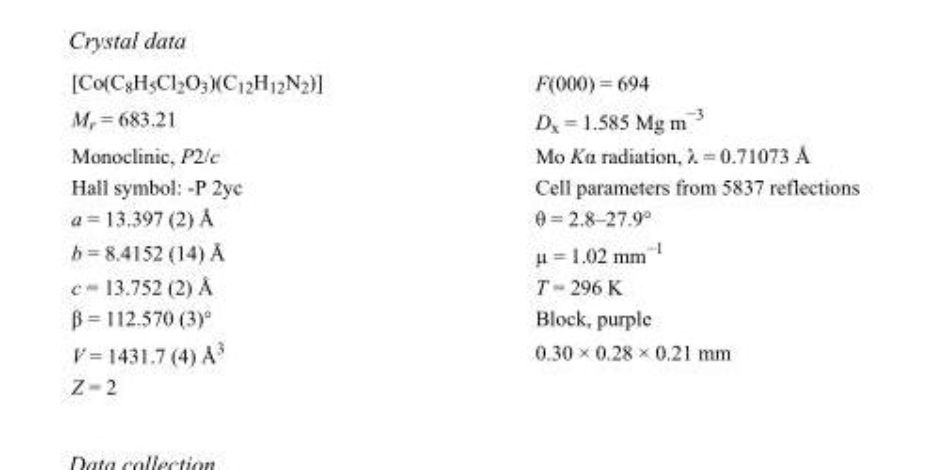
<table><tbody><tr><td>[Co(C<sub>8</sub>H<sub>5</sub>Cl<sub>2</sub>O<sub>3</sub>)(C<sub>12</sub>H<sub>12</sub>N<sub>2</sub>)]</td><td>F(000) = 694</td></tr><tr><td>M<sub>r</sub> = 683.21</td><td>D<sub>x</sub> = 1.585 Mg m<sup>−3</sup></td></tr><tr><td>Monoclinic, P2/c</td><td>Mo Kα radiation, λ = 0.71073 Å</td></tr><tr><td>Hall symbol: -P 2yc</td><td>Cell parameters from 5837 reflections</td></tr><tr><td>a = 13.397 (2) Å</td><td>θ = 2.8–27.9°</td></tr><tr><td>b = 8.4152 (14) Å</td><td>µ = 1.02 mm<sup>−1</sup></td></tr><tr><td>c = 13.752 (2) Å</td><td>T = 296 K</td></tr><tr><td>β = 112.570 (3)°</td><td>Block, purple</td></tr><tr><td>V = 1431.7 (4) Å<sup>3</sup></td><td>0.30 × 0.28 × 0.21 mm</td></tr><tr><td>Z = 2</td><td></td></tr></tbody></table>